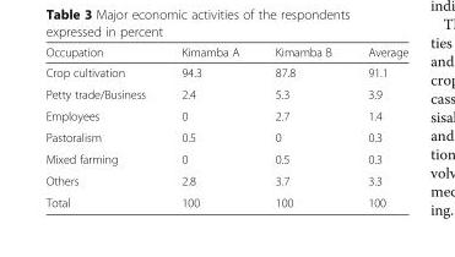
<table><thead><tr><td>Occupation</td><td>Kimamba A</td><td>Kimamba B</td><td>Average</td></tr></thead><tbody><tr><td>Crop cultivation</td><td>94.3</td><td>87.8</td><td>91.1</td></tr><tr><td>Petty trade/Business</td><td>2.4</td><td>5.3</td><td>3.9</td></tr><tr><td>Employees</td><td>0</td><td>2.7</td><td>1.4</td></tr><tr><td>Pastoralism</td><td>0.5</td><td>0</td><td>0.3</td></tr><tr><td>Mixed farming</td><td>0</td><td>0.5</td><td>0.3</td></tr><tr><td>Others</td><td>2.8</td><td>3.7</td><td>3.3</td></tr><tr><td>Total</td><td>100</td><td>100</td><td>100</td></tr></tbody></table>